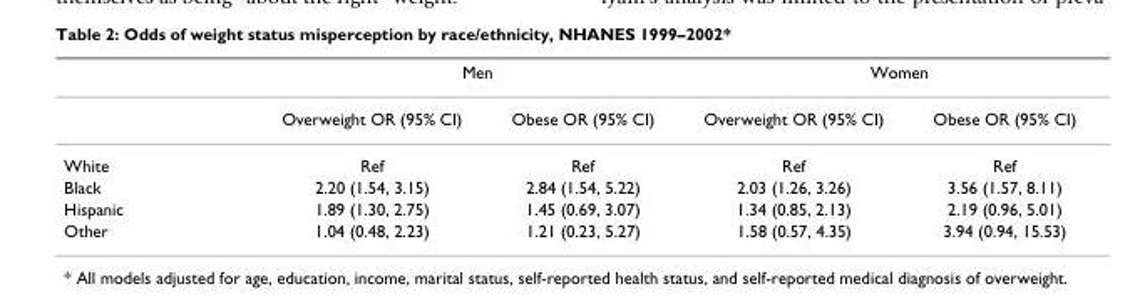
<table><thead><tr><td rowspan="2"></td><td colspan="2">Men</td><td colspan="2">Women</td></tr><tr><td>Overweight OR (95% CI)</td><td>Obese OR (95% CI)</td><td>Overweight OR (95% CI)</td><td>Obese OR (95% CI)</td></tr></thead><tbody><tr><td>White</td><td>Ref</td><td>Ref</td><td>Ref</td><td>Ref</td></tr><tr><td>Black</td><td>2.20 (1.54, 3.15)</td><td>2.84 (1.54, 5.22)</td><td>2.03 (1.26, 3.26)</td><td>3.56 (1.57, 8.11)</td></tr><tr><td>Hispanic</td><td>1.89 (1.30, 2.75)</td><td>1.45 (0.69, 3.07)</td><td>1.34 (0.85, 2.13)</td><td>2.19 (0.96, 5.01)</td></tr><tr><td>Other</td><td>1.04 (0.48, 2.23)</td><td>1.21 (0.23, 5.27)</td><td>1.58 (0.57, 4.35)</td><td>3.94 (0.94, 15.53)</td></tr></tbody></table>